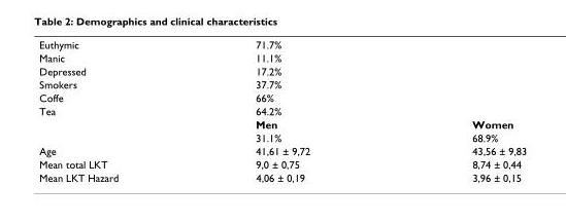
<table><tbody><tr><td>Euthymic</td><td>71.7%</td><td></td></tr><tr><td>Manic</td><td>11.1%</td><td></td></tr><tr><td>Depressed</td><td>17.2%</td><td></td></tr><tr><td>Smokers</td><td>37.7%</td><td></td></tr><tr><td>Coffe</td><td>66%</td><td></td></tr><tr><td rowspan="3">Tea</td><td>64.2%</td><td></td></tr><tr><td>Men</td><td>Women</td></tr><tr><td>31.1%</td><td>68.9%</td></tr><tr><td>Age</td><td>41,61 ± 9,72</td><td>43,56 ± 9,83</td></tr><tr><td>Mean total LKT</td><td>9,0 ± 0,75</td><td>8,74 ± 0,44</td></tr><tr><td>Mean LKT Hazard</td><td>4,06 ± 0,19</td><td>3,96 ± 0,15</td></tr></tbody></table>